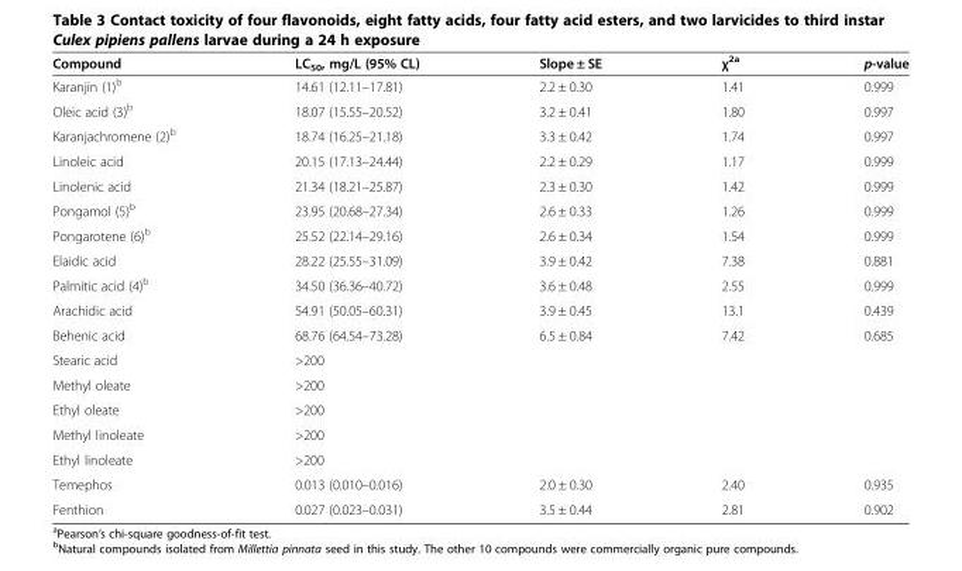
<table><thead><tr><td>Compound</td><td>LC<sub>50</sub>, mg/L (95% CL)</td><td>Slope ± SE</td><td>χ<sup>2a</sup></td><td>p-value</td></tr></thead><tbody><tr><td>Karanjin (1)<sup>b</sup></td><td>14.61 (12.11–17.81)</td><td>2.2 ± 0.30</td><td>1.41</td><td>0.999</td></tr><tr><td>Oleic acid (3)<sup>b</sup></td><td>18.07 (15.55–20.52)</td><td>3.2 ± 0.41</td><td>1.80</td><td>0.997</td></tr><tr><td>Karanjachromene (2)<sup>b</sup></td><td>18.74 (16.25–21.18)</td><td>3.3 ± 0.42</td><td>1.74</td><td>0.997</td></tr><tr><td>Linoleic acid</td><td>20.15 (17.13–24.44)</td><td>2.2 ± 0.29</td><td>1.17</td><td>0.999</td></tr><tr><td>Linolenic acid</td><td>21.34 (18.21–25.87)</td><td>2.3 ± 0.30</td><td>1.42</td><td>0.999</td></tr><tr><td>Pongamol (5)<sup>b</sup></td><td>23.95 (20.68–27.34)</td><td>2.6 ± 0.33</td><td>1.26</td><td>0.999</td></tr><tr><td>Pongarotene (6)<sup>b</sup></td><td>25.52 (22.14–29.16)</td><td>2.6 ± 0.34</td><td>1.54</td><td>0.999</td></tr><tr><td>Elaidic acid</td><td>28.22 (25.55–31.09)</td><td>3.9 ± 0.42</td><td>7.38</td><td>0.881</td></tr><tr><td>Palmitic acid (4)<sup>b</sup></td><td>34.50 (36.36–40.72)</td><td>3.6 ± 0.48</td><td>2.55</td><td>0.999</td></tr><tr><td>Arachidic acid</td><td>54.91 (50.05–60.31)</td><td>3.9 ± 0.45</td><td>13.1</td><td>0.439</td></tr><tr><td>Behenic acid</td><td>68.76 (64.54–73.28)</td><td>6.5 ± 0.84</td><td>7.42</td><td>0.685</td></tr><tr><td>Stearic acid</td><td>&gt;200</td><td></td><td></td><td></td></tr><tr><td>Methyl oleate</td><td>&gt;200</td><td></td><td></td><td></td></tr><tr><td>Ethyl oleate</td><td>&gt;200</td><td></td><td></td><td></td></tr><tr><td>Methyl linoleate</td><td>&gt;200</td><td></td><td></td><td></td></tr><tr><td>Ethyl linoleate</td><td>&gt;200</td><td></td><td></td><td></td></tr><tr><td>Temephos</td><td>0.013 (0.010–0.016)</td><td>2.0 ± 0.30</td><td>2.40</td><td>0.935</td></tr><tr><td>Fenthion</td><td>0.027 (0.023–0.031)</td><td>3.5 ± 0.44</td><td>2.81</td><td>0.902</td></tr></tbody></table>